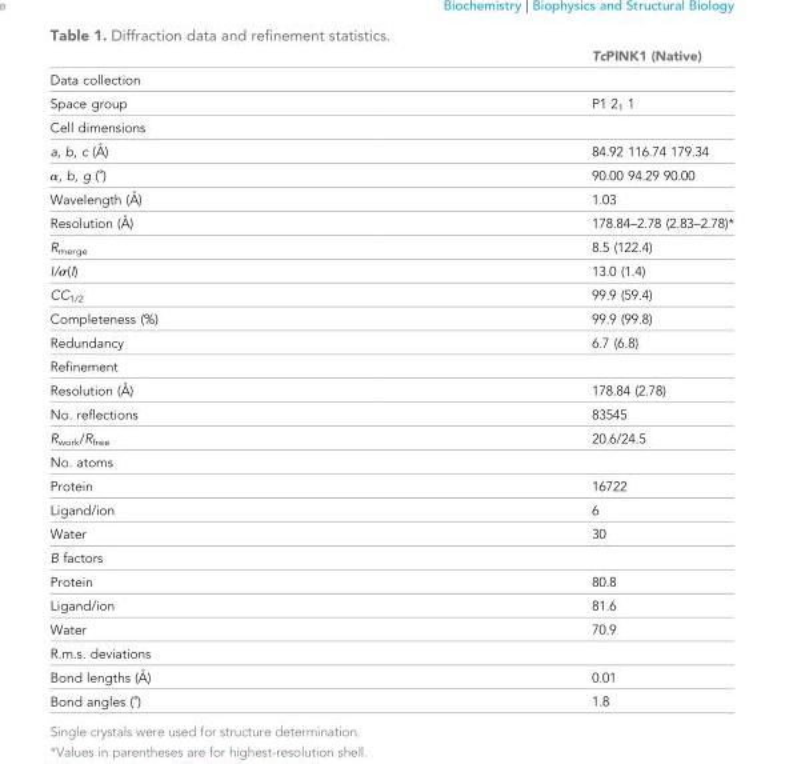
<table><thead><tr><td></td><td>TcPINK1 (Native)</td></tr></thead><tbody><tr><td colspan="2">Data collection</td></tr><tr><td>Space group</td><td>P1 2<sub>1</sub> 1</td></tr><tr><td colspan="2">Cell dimensions</td></tr><tr><td>a, b, c (A˚ )</td><td>84.92 116.74 179.34</td></tr><tr><td>α, b, g (˚)</td><td>90.00 94.29 90.00</td></tr><tr><td>Wavelength (A˚ )</td><td>1.03</td></tr><tr><td>Resolution (A˚ )</td><td>178.84–2.78 (2.83–2.78)*</td></tr><tr><td>R<sub>merge</sub></td><td>8.5 (122.4)</td></tr><tr><td>I/σ(I)</td><td>13.0 (1.4)</td></tr><tr><td>CC<sub>1/2</sub></td><td>99.9 (59.4)</td></tr><tr><td>Completeness (%)</td><td>99.9 (99.8)</td></tr><tr><td>Redundancy</td><td>6.7 (6.8)</td></tr><tr><td colspan="2">Refinement</td></tr><tr><td>Resolution (A˚ )</td><td>178.84 (2.78)</td></tr><tr><td>No. reflections</td><td>83545</td></tr><tr><td>R<sub>work</sub>/R<sub>free</sub></td><td>20.6/24.5</td></tr><tr><td colspan="2">No. atoms</td></tr><tr><td>Protein</td><td>16722</td></tr><tr><td>Ligand/ion</td><td>6</td></tr><tr><td>Water</td><td>30</td></tr><tr><td colspan="2">B factors</td></tr><tr><td>Protein</td><td>80.8</td></tr><tr><td>Ligand/ion</td><td>81.6</td></tr><tr><td>Water</td><td>70.9</td></tr><tr><td colspan="2">R.m.s. deviations</td></tr><tr><td>Bond lengths (A˚ )</td><td>0.01</td></tr><tr><td>Bond angles (˚)</td><td>1.8</td></tr></tbody></table>